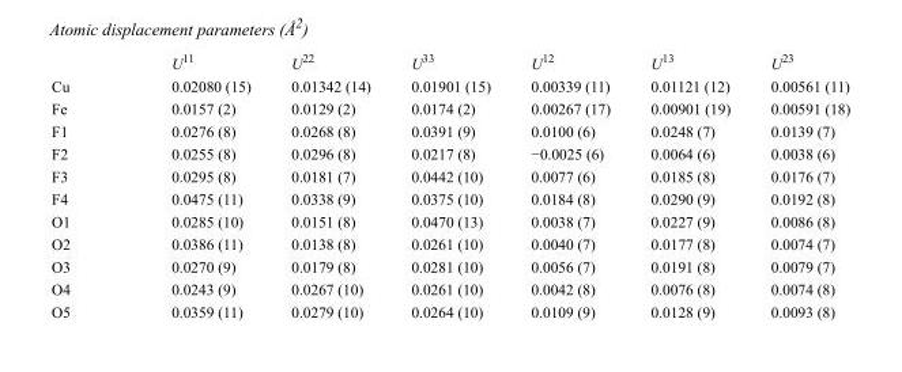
<table><thead><tr><td></td><td>U<sup>11</sup></td><td>U<sup>22</sup></td><td>U<sup>33</sup></td><td>U<sup>12</sup></td><td>U<sup>13</sup></td><td>U<sup>23</sup></td></tr></thead><tbody><tr><td>Cu</td><td>0.02080 (15)</td><td>0.01342 (14)</td><td>0.01901 (15)</td><td>0.00339 (11)</td><td>0.01121 (12)</td><td>0.00561 (11)</td></tr><tr><td>Fe</td><td>0.0157 (2)</td><td>0.0129 (2)</td><td>0.0174 (2)</td><td>0.00267 (17)</td><td>0.00901 (19)</td><td>0.00591 (18)</td></tr><tr><td>F1</td><td>0.0276 (8)</td><td>0.0268 (8)</td><td>0.0391 (9)</td><td>0.0100 (6)</td><td>0.0248 (7)</td><td>0.0139 (7)</td></tr><tr><td>F2</td><td>0.0255 (8)</td><td>0.0296 (8)</td><td>0.0217 (8)</td><td>−0.0025 (6)</td><td>0.0064 (6)</td><td>0.0038 (6)</td></tr><tr><td>F3</td><td>0.0295 (8)</td><td>0.0181 (7)</td><td>0.0442 (10)</td><td>0.0077 (6)</td><td>0.0185 (8)</td><td>0.0176 (7)</td></tr><tr><td>F4</td><td>0.0475 (11)</td><td>0.0338 (9)</td><td>0.0375 (10)</td><td>0.0184 (8)</td><td>0.0290 (9)</td><td>0.0192 (8)</td></tr><tr><td>O1</td><td>0.0285 (10)</td><td>0.0151 (8)</td><td>0.0470 (13)</td><td>0.0038 (7)</td><td>0.0227 (9)</td><td>0.0086 (8)</td></tr><tr><td>O2</td><td>0.0386 (11)</td><td>0.0138 (8)</td><td>0.0261 (10)</td><td>0.0040 (7)</td><td>0.0177 (8)</td><td>0.0074 (7)</td></tr><tr><td>O3</td><td>0.0270 (9)</td><td>0.0179 (8)</td><td>0.0281 (10)</td><td>0.0056 (7)</td><td>0.0191 (8)</td><td>0.0079 (7)</td></tr><tr><td>O4</td><td>0.0243 (9)</td><td>0.0267 (10)</td><td>0.0261 (10)</td><td>0.0042 (8)</td><td>0.0076 (8)</td><td>0.0074 (8)</td></tr><tr><td>O5</td><td>0.0359 (11)</td><td>0.0279 (10)</td><td>0.0264 (10)</td><td>0.0109 (9)</td><td>0.0128 (9)</td><td>0.0093 (8)</td></tr></tbody></table>